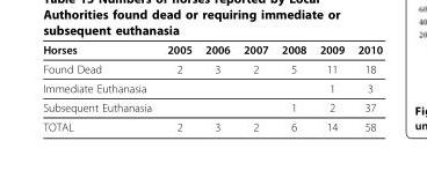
<table><thead><tr><td>Horses</td><td>2005</td><td>2006</td><td>2007</td><td>2008</td><td>2009</td><td>2010</td></tr></thead><tbody><tr><td>Found Dead</td><td>2</td><td>3</td><td>2</td><td>5</td><td>11</td><td>18</td></tr><tr><td>Immediate Euthanasia</td><td></td><td></td><td></td><td></td><td>1</td><td>3</td></tr><tr><td>Subsequent Euthanasia</td><td></td><td></td><td></td><td>1</td><td>2</td><td>37</td></tr><tr><td>TOTAL</td><td>2</td><td>3</td><td>2</td><td>6</td><td>14</td><td>58</td></tr></tbody></table>